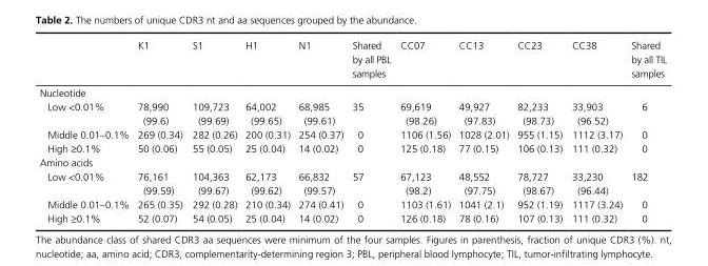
<table><thead><tr><td></td><td>K1</td><td>S1</td><td>H1</td><td>N1</td><td>Shared by all PBL samples</td><td>CC07</td><td>CC13</td><td>CC23</td><td>CC38</td><td>Shared by all TIL samples</td></tr></thead><tbody><tr><td colspan="11">Nucleotide</td></tr><tr><td>Low &lt;0.01%</td><td>78,990 (99.6)</td><td>109,723 (99.69)</td><td>64,002 (99.65)</td><td>68,985 (99.61)</td><td>35</td><td>69,619 (98.26)</td><td>49,927 (97.83)</td><td>82,233 (98.73)</td><td>33,903 (96.52)</td><td>6</td></tr><tr><td>Middle 0.01–0.1%</td><td>269 (0.34)</td><td>282 (0.26)</td><td>200 (0.31)</td><td>254 (0.37)</td><td>0</td><td>1106 (1.56)</td><td>1028 (2.01)</td><td>955 (1.15)</td><td>1112 (3.17)</td><td>0</td></tr><tr><td>High ≥0.1%</td><td>50 (0.06)</td><td>55 (0.05)</td><td>25 (0.04)</td><td>14 (0.02)</td><td>0</td><td>125 (0.18)</td><td>77 (0.15)</td><td>106 (0.13)</td><td>111 (0.32)</td><td>0</td></tr><tr><td colspan="11">Amino acids</td></tr><tr><td>Low &lt;0.01%</td><td>76,161 (99.59)</td><td>104,363 (99.67)</td><td>62,173 (99.62)</td><td>66,832 (99.57)</td><td>57</td><td>67,123 (98.2)</td><td>48,552 (97.75)</td><td>78,727 (98.67)</td><td>33,230 (96.44)</td><td>182</td></tr><tr><td>Middle 0.01–0.1%</td><td>265 (0.35)</td><td>292 (0.28)</td><td>210 (0.34)</td><td>274 (0.41)</td><td>0</td><td>1103 (1.61)</td><td>1041 (2.1)</td><td>952 (1.19)</td><td>1117 (3.24)</td><td>0</td></tr><tr><td>High ≥0.1%</td><td>52 (0.07)</td><td>54 (0.05)</td><td>25 (0.04)</td><td>14 (0.02)</td><td>0</td><td>126 (0.18)</td><td>78 (0.16)</td><td>107 (0.13)</td><td>111 (0.32)</td><td>0</td></tr></tbody></table>